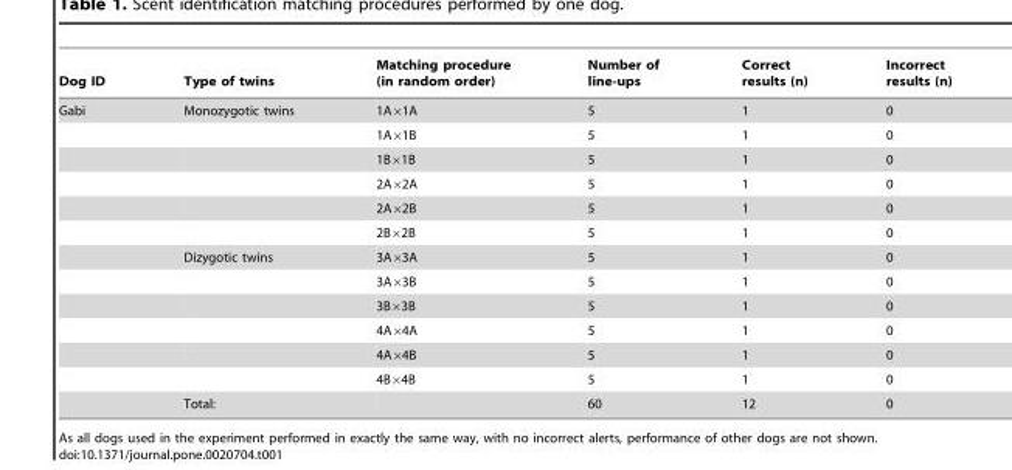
<table><thead><tr><td>Dog ID</td><td>Type of twins</td><td>Matching procedure (in random order)</td><td>Number of line-ups</td><td>Correct results (n)</td><td>Incorrect results (n)</td></tr></thead><tbody><tr><td rowspan="13">Gabi</td><td>Monozygotic twins</td><td>1A×1A</td><td>5</td><td>1</td><td>0</td></tr><tr><td></td><td>1A×1B</td><td>5</td><td>1</td><td>0</td></tr><tr><td></td><td>1B×1B</td><td>5</td><td>1</td><td>0</td></tr><tr><td></td><td>2A×2A</td><td>5</td><td>1</td><td>0</td></tr><tr><td></td><td>2A×2B</td><td>5</td><td>1</td><td>0</td></tr><tr><td></td><td>2B×2B</td><td>5</td><td>1</td><td>0</td></tr><tr><td>Dizygotic twins</td><td>3A×3A</td><td>5</td><td>1</td><td>0</td></tr><tr><td></td><td>3A×3B</td><td>5</td><td>1</td><td>0</td></tr><tr><td></td><td>3B×3B</td><td>5</td><td>1</td><td>0</td></tr><tr><td></td><td>4A×4A</td><td>5</td><td>1</td><td>0</td></tr><tr><td></td><td>4A×4B</td><td>5</td><td>1</td><td>0</td></tr><tr><td></td><td>4B×4B</td><td>5</td><td>1</td><td>0</td></tr><tr><td>Total:</td><td></td><td>60</td><td>12</td><td>0</td></tr></tbody></table>